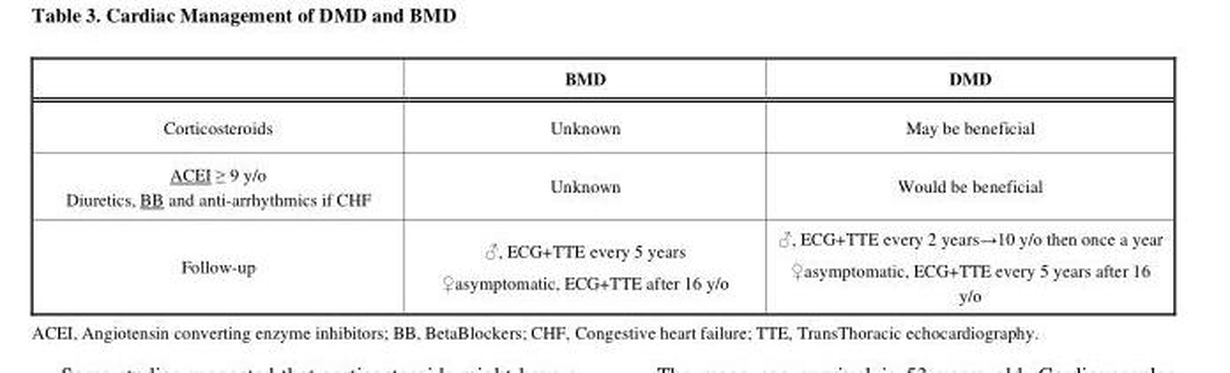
<table><thead><tr><td></td><td>BMD</td><td>DMD</td></tr></thead><tbody><tr><td>Corticosteroids</td><td>Unknown</td><td>May be beneficial</td></tr><tr><td>ACEI ≥ 9 y/o Diuretics, BB and anti-arrhythmics if CHF</td><td>Unknown</td><td>Would be beneficial</td></tr><tr><td>Follow-up</td><td>♂, ECG+TTE every 5 years ♀asymptomatic, ECG+TTE after 16 y/o</td><td>♂, ECG+TTE every 2 years→10 y/o then once a year ♀asymptomatic, ECG+TTE every 5 years after 16 y/o</td></tr></tbody></table>